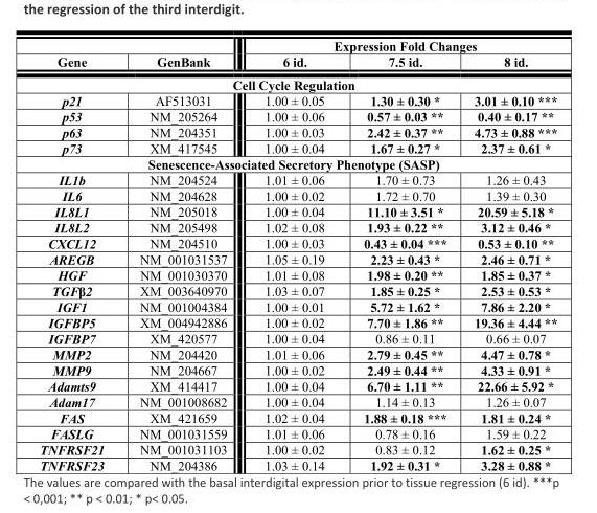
<table><thead><tr><td rowspan="2">Gene</td><td rowspan="2">GenBank</td><td colspan="3">Expression Fold Changes</td></tr><tr><td>6 id.</td><td>7.5 id.</td><td>8 id.</td></tr></thead><tbody><tr><td colspan="5">Cell Cycle Regulation</td></tr><tr><td>p21</td><td>AF513031</td><td>1.00 ± 0.05</td><td>1.30 ± 0.30 *</td><td>3.01 ± 0.10 ***</td></tr><tr><td>p53</td><td>NM_205264</td><td>1.00 ± 0.06</td><td>0.57 ± 0.03 **</td><td>0.40 ± 0.17 **</td></tr><tr><td>p63</td><td>NM_204351</td><td>1.00 ± 0.03</td><td>2.42 ± 0.37 **</td><td>4.73 ± 0.88 ***</td></tr><tr><td>p73</td><td>XM_417545</td><td>1.00 ± 0.04</td><td>1.67 ± 0.27 *</td><td>2.37 ± 0.61 *</td></tr><tr><td colspan="5">Senescence-Associated Secretory Phenotype (SASP)</td></tr><tr><td>IL1b</td><td>NM_204524</td><td>1.01 ± 0.06</td><td>1.70 ± 0.73</td><td>1.26 ± 0.43</td></tr><tr><td>IL6</td><td>NM_204628</td><td>1.00 ± 0.02</td><td>1.72 ± 0.70</td><td>1.39 ± 0.30</td></tr><tr><td>IL8L1</td><td>NM_205018</td><td>1.00 ± 0.04</td><td>11.10 ± 3.51 *</td><td>20.59 ± 5.18 *</td></tr><tr><td>IL8L2</td><td>NM_205498</td><td>1.02 ± 0.08</td><td>1.93 ± 0.22 **</td><td>3.12 ± 0.46 *</td></tr><tr><td>CXCL12</td><td>NM_204510</td><td>1.00 ± 0.03</td><td>0.43 ± 0.04 ***</td><td>0.53 ± 0.10 **</td></tr><tr><td>AREGB</td><td>NM_001031537</td><td>1.05 ± 0.19</td><td>2.23 ± 0.43 *</td><td>2.46 ± 0.71 *</td></tr><tr><td>HGF</td><td>NM_001030370</td><td>1.01 ± 0.08</td><td>1.98 ± 0.20 **</td><td>1.85 ± 0.37 *</td></tr><tr><td>TGFβ2</td><td>XM_003640970</td><td>1.03 ± 0.07</td><td>1.85 ± 0.25 *</td><td>2.53 ± 0.53 *</td></tr><tr><td>IGF1</td><td>NM_001004384</td><td>1.00 ± 0.01</td><td>5.72 ± 1.62 *</td><td>7.86 ± 2.20 *</td></tr><tr><td>IGFBP5</td><td>XM_004942886</td><td>1.00 ± 0.02</td><td>7.70 ± 1.86 **</td><td>19.36 ± 4.44 **</td></tr><tr><td>IGFBP7</td><td>XM_420577</td><td>1.00 ± 0.04</td><td>0.86 ± 0.11</td><td>0.66 ± 0.07</td></tr><tr><td>MMP2</td><td>NM_204420</td><td>1.01 ± 0.06</td><td>2.79 ± 0.45 **</td><td>4.47 ± 0.78 *</td></tr><tr><td>MMP9</td><td>NM_204667</td><td>1.00 ± 0.02</td><td>2.49 ± 0.44 **</td><td>4.33 ± 0.91 *</td></tr><tr><td>Adamts9</td><td>XM_414417</td><td>1.00 ± 0.04</td><td>6.70 ± 1.11 **</td><td>22.66 ± 5.92 *</td></tr><tr><td>Adam17</td><td>NM_001008682</td><td>1.00 ± 0.04</td><td>1.14 ± 0.13</td><td>1.26 ± 0.07</td></tr><tr><td>FAS</td><td>XM_421659</td><td>1.02 ± 0.04</td><td>1.88 ± 0.18 ***</td><td>1.81 ± 0.24 *</td></tr><tr><td>FASLG</td><td>NM_001031559</td><td>1.01 ± 0.06</td><td>0.78 ± 0.16</td><td>1.59 ± 0.22</td></tr><tr><td>TNFRSF21</td><td>NM_001031103</td><td>1.00 ± 0.02</td><td>0.83 ± 0.12</td><td>1.62 ± 0.25 *</td></tr><tr><td>TNFRSF23</td><td>NM_204386</td><td>1.03 ± 0.14</td><td>1.92 ± 0.31 *</td><td>3.28 ± 0.88 *</td></tr></tbody></table>